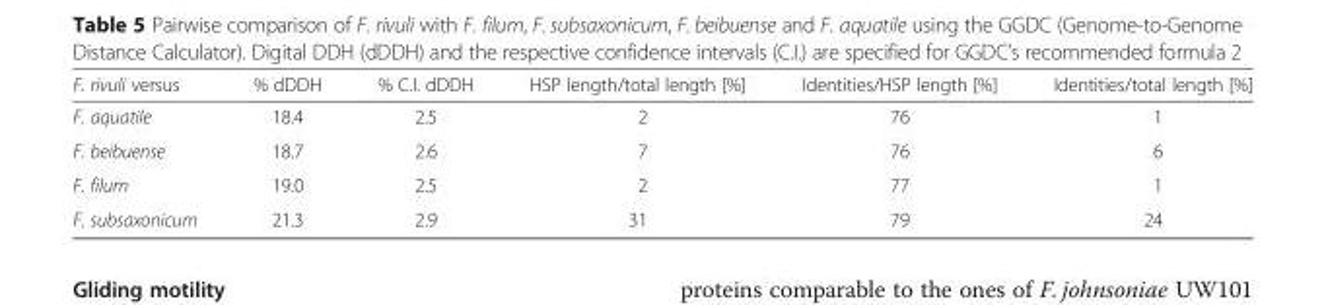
<table><thead><tr><td>F. rivuli versus</td><td>% dDDH</td><td>% C.I. dDDH</td><td>HSP length/total length [%]</td><td>Identities/HSP length [%]</td><td>Identities/total length [%]</td></tr></thead><tbody><tr><td>F. aquatile</td><td>18.4</td><td>2.5</td><td>2</td><td>76</td><td>1</td></tr><tr><td>F. beibuense</td><td>18.7</td><td>2.6</td><td>7</td><td>76</td><td>6</td></tr><tr><td>F. filum</td><td>19.0</td><td>2.5</td><td>2</td><td>77</td><td>1</td></tr><tr><td>F. subsaxonicum</td><td>21.3</td><td>2.9</td><td>31</td><td>79</td><td>24</td></tr></tbody></table>